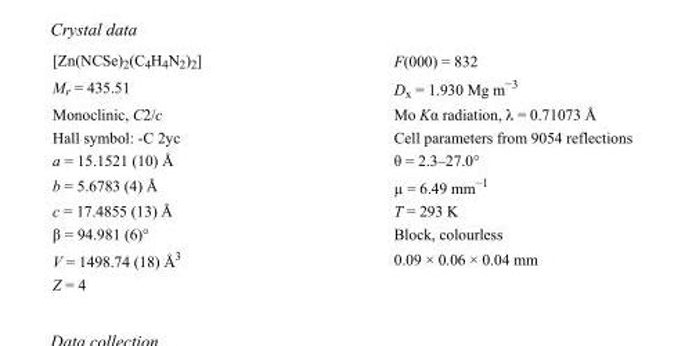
<table><tbody><tr><td>[Zn(NCSe)<sub>2</sub>(C<sub>4</sub>H<sub>4</sub>N<sub>2</sub>)<sub>2</sub>]</td><td>F(000) = 832</td></tr><tr><td>M<sub>r</sub> = 435.51</td><td>D<sub>x</sub> = 1.930 Mg m<sup>−3</sup></td></tr><tr><td>Monoclinic, C2/c</td><td>Mo Kα radiation, λ = 0.71073 Å</td></tr><tr><td>Hall symbol: -C 2yc</td><td>Cell parameters from 9054 reflections</td></tr><tr><td>a = 15.1521 (10) Å</td><td>θ = 2.3–27.0°</td></tr><tr><td>b = 5.6783 (4) Å</td><td>µ = 6.49 mm<sup>−1</sup></td></tr><tr><td>c = 17.4855 (13) Å</td><td>T = 293 K</td></tr><tr><td>β = 94.981 (6)°</td><td>Block, colourless</td></tr><tr><td>V = 1498.74 (18) Å<sup>3</sup></td><td>0.09 × 0.06 × 0.04 mm</td></tr><tr><td>Z = 4</td><td></td></tr></tbody></table>